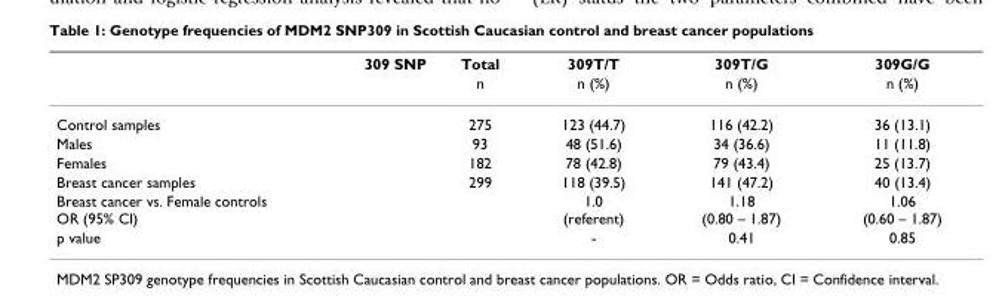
<table><thead><tr><td rowspan="2">309 SNP</td><td rowspan="2">Total n</td><td rowspan="2">309T/T n (%)</td><td rowspan="2">309T/G n (%)</td><td rowspan="2">309G/G n (%)</td></tr><tr></tr></thead><tbody><tr><td>Control samples</td><td>275</td><td>123 (44.7)</td><td>116 (42.2)</td><td>36 (13.1)</td></tr><tr><td>Males</td><td>93</td><td>48 (51.6)</td><td>34 (36.6)</td><td>11 (11.8)</td></tr><tr><td>Females</td><td>182</td><td>78 (42.8)</td><td>79 (43.4)</td><td>25 (13.7)</td></tr><tr><td>Breast cancer samples</td><td>299</td><td>118 (39.5)</td><td>141 (47.2)</td><td>40 (13.4)</td></tr><tr><td>Breast cancer vs. Female controls OR (95% CI)</td><td></td><td>1.0 (referent)</td><td>1.18 (0.80 – 1.87)</td><td>1.06 (0.60 – 1.87)</td></tr><tr><td>p value</td><td></td><td>-</td><td>0.41</td><td>0.85</td></tr></tbody></table>